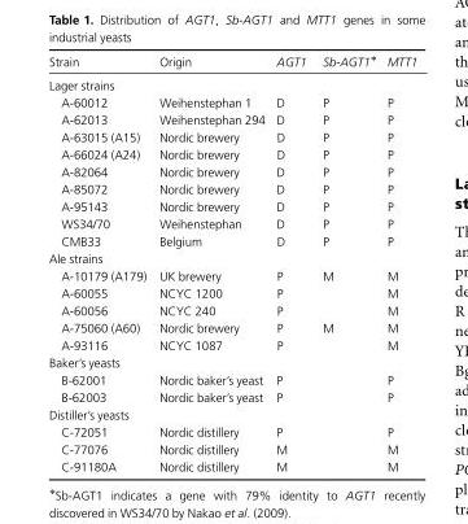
<table><thead><tr><td>Strain</td><td>Origin</td><td>AGT1</td><td>Sb-AGT1*</td><td>MTT1</td></tr></thead><tbody><tr><td colspan="5">Lager strains</td></tr><tr><td>A-60012</td><td>Weihenstephan 1</td><td>D</td><td>P</td><td>P</td></tr><tr><td>A-62013</td><td>Weihenstephan 294</td><td>D</td><td>P</td><td>P</td></tr><tr><td>A-63015 (A15)</td><td>Nordic brewery</td><td>D</td><td>P</td><td>P</td></tr><tr><td>A-66024 (A24)</td><td>Nordic brewery</td><td>D</td><td>P</td><td>P</td></tr><tr><td>A-82064</td><td>Nordic brewery</td><td>D</td><td>P</td><td>P</td></tr><tr><td>A-85072</td><td>Nordic brewery</td><td>D</td><td>P</td><td>P</td></tr><tr><td>A-95143</td><td>Nordic brewery</td><td>D</td><td>P</td><td>P</td></tr><tr><td>WS34/70</td><td>Weihenstephan</td><td>D</td><td>P</td><td>P</td></tr><tr><td>CMB33</td><td>Belgium</td><td>D</td><td>P</td><td>P</td></tr><tr><td colspan="5">Ale strains</td></tr><tr><td>A-10179 (A179)</td><td>UK brewery</td><td>P</td><td>M</td><td>M</td></tr><tr><td>A-60055</td><td>NCYC 1200</td><td>P</td><td></td><td>M</td></tr><tr><td>A-60056</td><td>NCYC 240</td><td>P</td><td></td><td>M</td></tr><tr><td>A-75060 (A60)</td><td>Nordic brewery</td><td>P</td><td>M</td><td>M</td></tr><tr><td>A-93116</td><td>NCYC 1087</td><td>P</td><td></td><td>M</td></tr><tr><td colspan="5">Baker’s yeasts</td></tr><tr><td>B-62001</td><td>Nordic baker’s yeast</td><td>P</td><td></td><td>P</td></tr><tr><td>B-62003</td><td>Nordic baker’s yeast</td><td>P</td><td></td><td>P</td></tr><tr><td colspan="5">Distiller’s yeasts</td></tr><tr><td>C-72051</td><td>Nordic distillery</td><td>P</td><td></td><td>P</td></tr><tr><td>C-77076</td><td>Nordic distillery</td><td>M</td><td></td><td>M</td></tr><tr><td>C-91180A</td><td>Nordic distillery</td><td>M</td><td></td><td>M</td></tr></tbody></table>